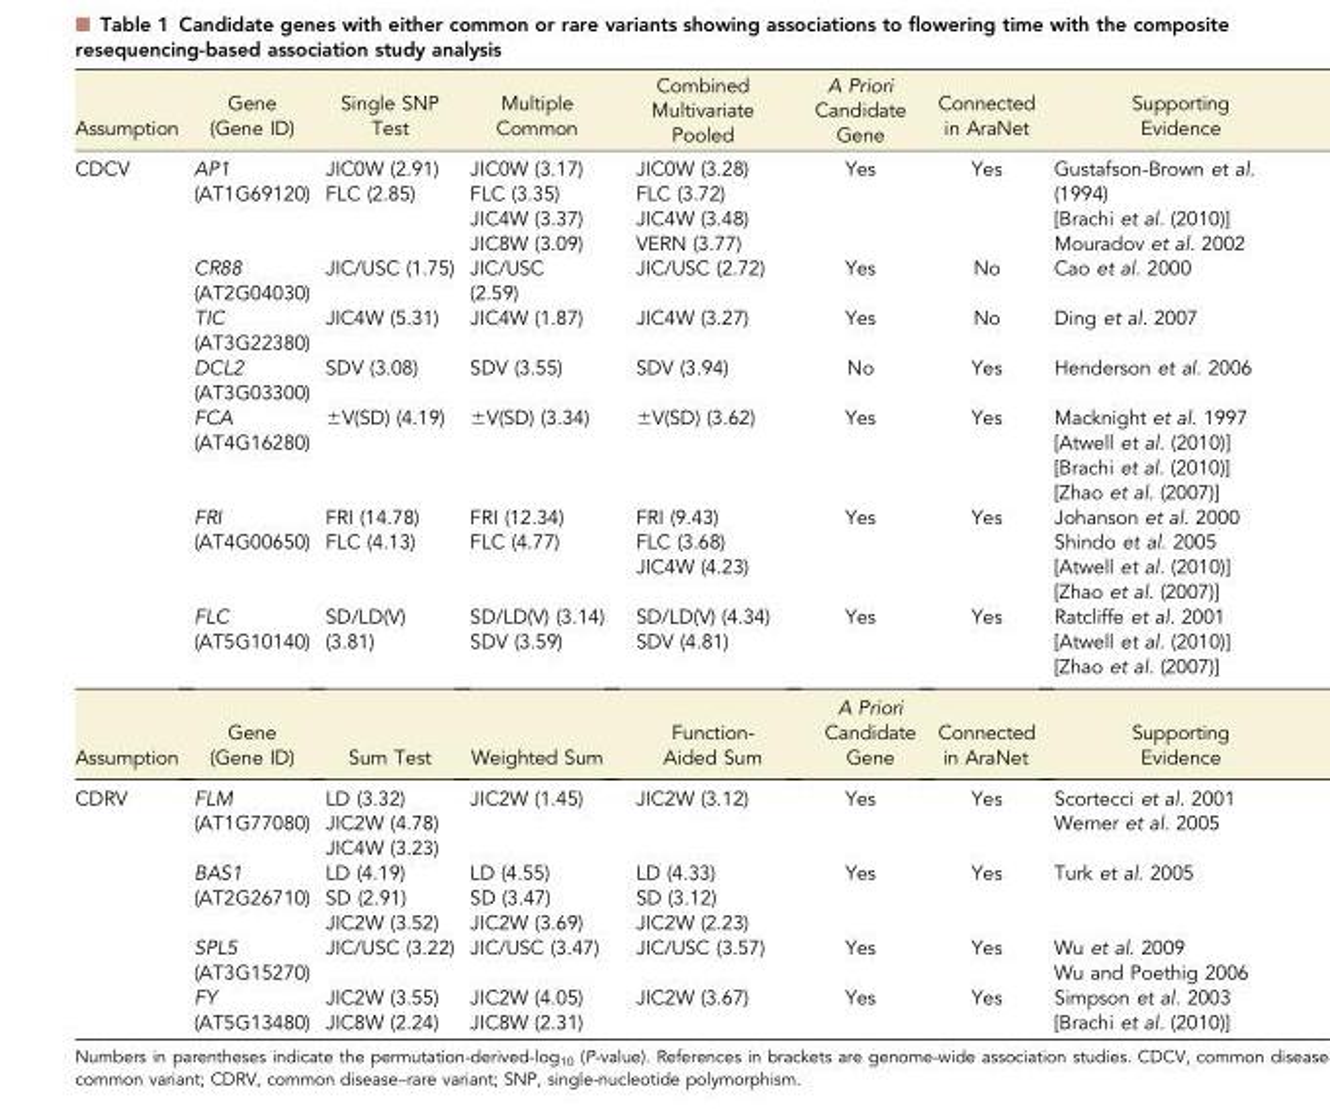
<table><thead><tr><td>Assumption</td><td>Gene (Gene ID)</td><td>Single SNP Test</td><td>Multiple Common</td><td>Combined Multivariate Pooled</td><td>A Priori Candidate Gene</td><td>Connected in AraNet</td><td>Supporting Evidence</td></tr></thead><tbody><tr><td rowspan="7">CDCV</td><td>AP1 (AT1G69120)</td><td>JIC0W (2.91) FLC (2.85)</td><td>JIC0W (3.17) FLC (3.35) JIC4W (3.37) JIC8W (3.09)</td><td>JIC0W (3.28) FLC (3.72) JIC4W (3.48) VERN (3.77)</td><td>Yes</td><td>Yes</td><td>Gustafson-Brown et al. (1994) [Brachi et al. (2010)] Mouradov et al. 2002</td></tr><tr><td>CR88 (AT2G04030)</td><td>JIC/USC (1.75)</td><td>JIC/USC (2.59)</td><td>JIC/USC (2.72)</td><td>Yes</td><td>No</td><td>Cao et al. 2000</td></tr><tr><td>TIC (AT3G22380)</td><td>JIC4W (5.31)</td><td>JIC4W (1.87)</td><td>JIC4W (3.27)</td><td>Yes</td><td>No</td><td>Ding et al. 2007</td></tr><tr><td>DCL2 (AT3G03300)</td><td>SDV (3.08)</td><td>SDV (3.55)</td><td>SDV (3.94)</td><td>No</td><td>Yes</td><td>Henderson et al. 2006</td></tr><tr><td>FCA (AT4G16280)</td><td>±V(SD) (4.19)</td><td>±V(SD) (3.34)</td><td>±V(SD) (3.62)</td><td>Yes</td><td>Yes</td><td>Macknight et al. 1997 [Atwell et al. (2010)] [Brachi et al. (2010)] [Zhao et al. (2007)]</td></tr><tr><td>FRI (AT4G00650)</td><td>FRI (14.78) FLC (4.13)</td><td>FRI (12.34) FLC (4.77)</td><td>FRI (9.43) FLC (3.68) JIC4W (4.23)</td><td>Yes</td><td>Yes</td><td>Johanson et al. 2000 Shindo et al. 2005 [Atwell et al. (2010)] [Zhao et al. (2007)]</td></tr><tr><td>FLC (AT5G10140)</td><td>SD/LD(V) (3.81)</td><td>SD/LD(V) (3.14) SDV (3.59)</td><td>SD/LD(V) (4.34) SDV (4.81)</td><td>Yes</td><td>Yes</td><td>Ratcliffe et al. 2001 [Atwell et al. (2010)] [Zhao et al. (2007)]</td></tr><tr><td>Assumption</td><td>Gene (Gene ID)</td><td>Sum Test</td><td>Weighted Sum</td><td>Function- Aided Sum</td><td>A Priori Candidate Gene</td><td>Connected in AraNet</td><td>Supporting Evidence</td></tr><tr><td rowspan="4">CDRV</td><td>FLM (AT1G77080)</td><td>LD (3.32) JIC2W (4.78) JIC4W (3.23)</td><td>JIC2W (1.45)</td><td>JIC2W (3.12)</td><td>Yes</td><td>Yes</td><td>Scortecci et al. 2001 Werner et al. 2005</td></tr><tr><td>BAS1 (AT2G26710)</td><td>LD (4.19) SD (2.91) JIC2W (3.52)</td><td>LD (4.55) SD (3.47) JIC2W (3.69)</td><td>LD (4.33) SD (3.12) JIC2W (2.23)</td><td>Yes</td><td>Yes</td><td>Turk et al. 2005</td></tr><tr><td>SPL5 (AT3G15270)</td><td>JIC/USC (3.22)</td><td>JIC/USC (3.47)</td><td>JIC/USC (3.57)</td><td>Yes</td><td>Yes</td><td>Wu et al. 2009 Wu and Poethig 2006</td></tr><tr><td>FY (AT5G13480)</td><td>JIC2W (3.55) JIC8W (2.24)</td><td>JIC2W (4.05) JIC8W (2.31)</td><td>JIC2W (3.67)</td><td>Yes</td><td>Yes</td><td>Simpson et al. 2003 [Brachi et al. (2010)]</td></tr></tbody></table>